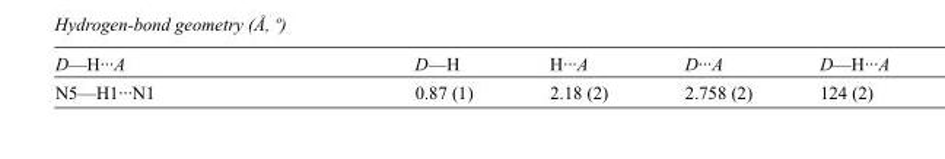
<table><tbody><tr><td>D—H···A</td><td>D—H</td><td>H···A</td><td>D···A</td><td>D—H···A</td></tr><tr><td>N5—H1···N1</td><td>0.87 (1)</td><td>2.18 (2)</td><td>2.758 (2)</td><td>124 (2)</td></tr></tbody></table>